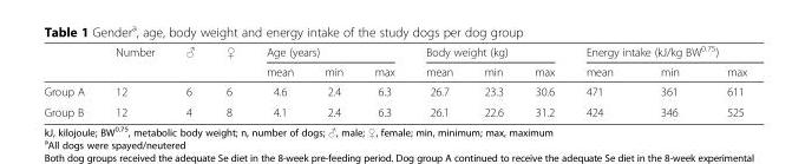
<table><thead><tr><td rowspan="2"></td><td rowspan="2">Number</td><td rowspan="2">♂</td><td rowspan="2">♀</td><td colspan="3">Age (years)</td><td colspan="3">Body weight (kg)</td><td colspan="3">Energy intake (kJ/kg BW<sup>0.75</sup>)</td></tr><tr><td>mean</td><td>min</td><td>max</td><td>mean</td><td>min</td><td>max</td><td>mean</td><td>min</td><td>max</td></tr></thead><tbody><tr><td>Group A</td><td>12</td><td>6</td><td>6</td><td>4.6</td><td>2.4</td><td>6.3</td><td>26.7</td><td>23.3</td><td>30.6</td><td>471</td><td>361</td><td>611</td></tr><tr><td>Group B</td><td>12</td><td>4</td><td>8</td><td>4.1</td><td>2.4</td><td>6.3</td><td>26.1</td><td>22.6</td><td>31.2</td><td>424</td><td>346</td><td>525</td></tr></tbody></table>